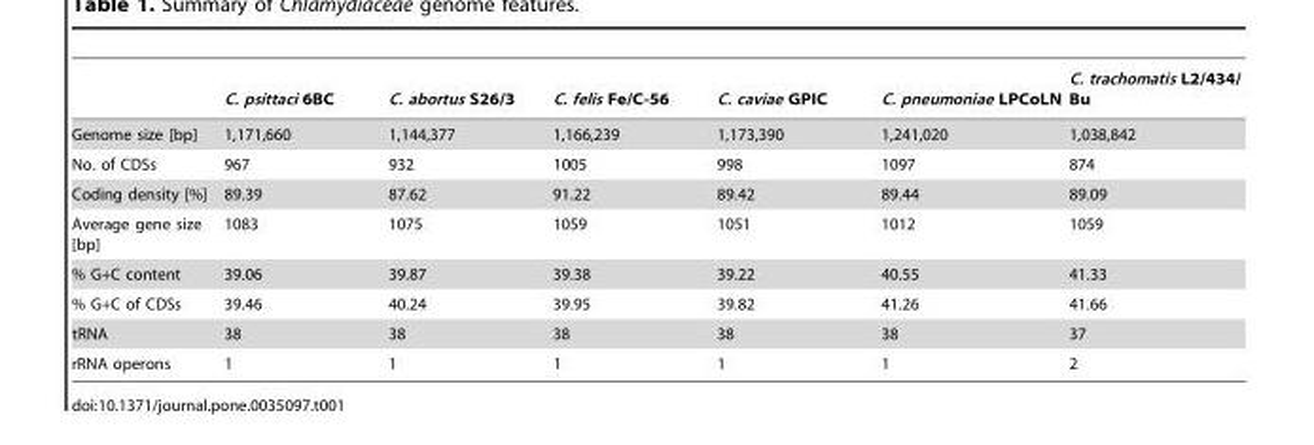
<table><thead><tr><td></td><td>C. psittaci 6BC</td><td>C. abortus S26/3</td><td>C. felis Fe/C-56</td><td>C. caviae GPIC</td><td>C. pneumoniae LPCoLN</td><td>C. trachomatis L2/434/ Bu</td></tr></thead><tbody><tr><td>Genome size [bp]</td><td>1,171,660</td><td>1,144,377</td><td>1,166,239</td><td>1,173,390</td><td>1,241,020</td><td>1,038,842</td></tr><tr><td>No. of CDSs</td><td>967</td><td>932</td><td>1005</td><td>998</td><td>1097</td><td>874</td></tr><tr><td>Coding density [%]</td><td>89.39</td><td>87.62</td><td>91.22</td><td>89.42</td><td>89.44</td><td>89.09</td></tr><tr><td>Average gene size [bp]</td><td>1083</td><td>1075</td><td>1059</td><td>1051</td><td>1012</td><td>1059</td></tr><tr><td>% G+C content</td><td>39.06</td><td>39.87</td><td>39.38</td><td>39.22</td><td>40.55</td><td>41.33</td></tr><tr><td>% G+C of CDSs</td><td>39.46</td><td>40.24</td><td>39.95</td><td>39.82</td><td>41.26</td><td>41.66</td></tr><tr><td>tRNA</td><td>38</td><td>38</td><td>38</td><td>38</td><td>38</td><td>37</td></tr><tr><td>rRNA operons</td><td>1</td><td>1</td><td>1</td><td>1</td><td>1</td><td>2</td></tr></tbody></table>